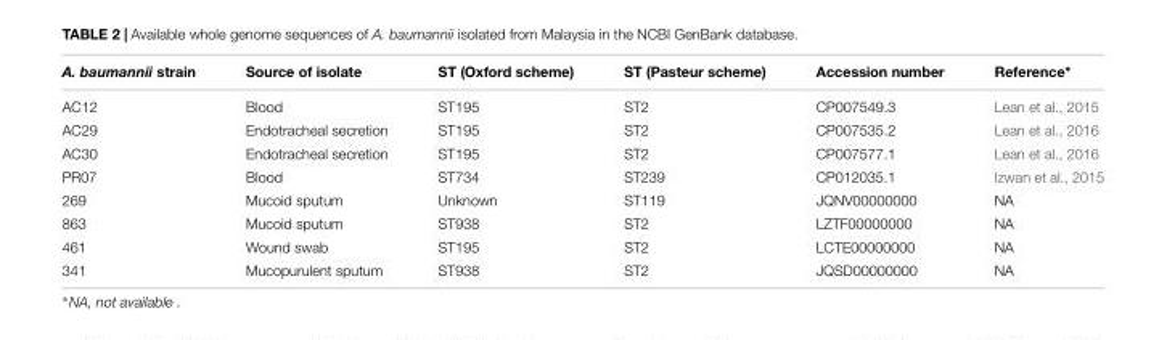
<table><thead><tr><td>A. baumannii strain</td><td>Source of isolate</td><td>ST (Oxford scheme)</td><td>ST (Pasteur scheme)</td><td>Accession number</td><td>Reference∗</td></tr></thead><tbody><tr><td>AC12</td><td>Blood</td><td>ST195</td><td>ST2</td><td>CP007549.3</td><td>Lean et al., 2015</td></tr><tr><td>AC29</td><td>Endotracheal secretion</td><td>ST195</td><td>ST2</td><td>CP007535.2</td><td>Lean et al., 2016</td></tr><tr><td>AC30</td><td>Endotracheal secretion</td><td>ST195</td><td>ST2</td><td>CP007577.1</td><td>Lean et al., 2016</td></tr><tr><td>PR07</td><td>Blood</td><td>ST734</td><td>ST239</td><td>CP012035.1</td><td>Izwan et al., 2015</td></tr><tr><td>269</td><td>Mucoid sputum</td><td>Unknown</td><td>ST119</td><td>JQNV00000000</td><td>NA</td></tr><tr><td>863</td><td>Mucoid sputum</td><td>ST938</td><td>ST2</td><td>LZTF00000000</td><td>NA</td></tr><tr><td>461</td><td>Wound swab</td><td>ST195</td><td>ST2</td><td>LCTE00000000</td><td>NA</td></tr><tr><td>341</td><td>Mucopurulent sputum</td><td>ST938</td><td>ST2</td><td>JQSD00000000</td><td>NA</td></tr></tbody></table>